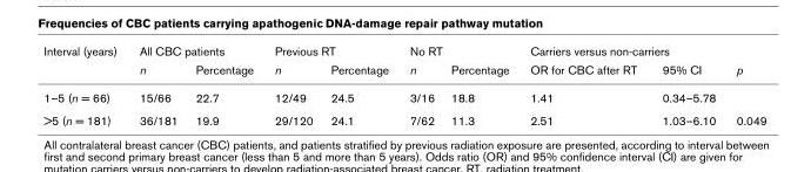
<table><thead><tr><td rowspan="2">Interval (years)</td><td colspan="2">All CBC patients</td><td colspan="2">Previous RT</td><td colspan="2">No RT</td><td colspan="3">Carriers versus non-carriers</td></tr><tr><td>n</td><td>Percentage</td><td>n</td><td>Percentage</td><td>n</td><td>Percentage</td><td>OR for CBC after RT</td><td>95% CI</td><td>p</td></tr></thead><tbody><tr><td>1–5 (n = 66)</td><td>15/66</td><td>22.7</td><td>12/49</td><td>24.5</td><td>3/16</td><td>18.8</td><td>1.41</td><td>0.34–5.78</td><td></td></tr><tr><td>&gt;5 (n = 181)</td><td>36/181</td><td>19.9</td><td>29/120</td><td>24.1</td><td>7/62</td><td>11.3</td><td>2.51</td><td>1.03–6.10</td><td>0.049</td></tr></tbody></table>